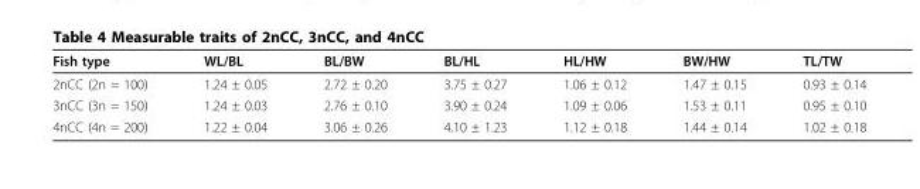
<table><thead><tr><td>Fish type</td><td>WL/BL</td><td>BL/BW</td><td>BL/HL</td><td>HL/HW</td><td>BW/HW</td><td>TL/TW</td></tr></thead><tbody><tr><td>2nCC (2n = 100)</td><td>1.24 ± 0.05</td><td>2.72 ± 0.20</td><td>3.75 ± 0.27</td><td>1.06 ± 0.12</td><td>1.47 ± 0.15</td><td>0.93 ± 0.14</td></tr><tr><td>3nCC (3n = 150)</td><td>1.24 ± 0.03</td><td>2.76 ± 0.10</td><td>3.90 ± 0.24</td><td>1.09 ± 0.06</td><td>1.53 ± 0.11</td><td>0.95 ± 0.10</td></tr><tr><td>4nCC (4n = 200)</td><td>1.22 ± 0.04</td><td>3.06 ± 0.26</td><td>4.10 ± 1.23</td><td>1.12 ± 0.18</td><td>1.44 ± 0.14</td><td>1.02 ± 0.18</td></tr></tbody></table>